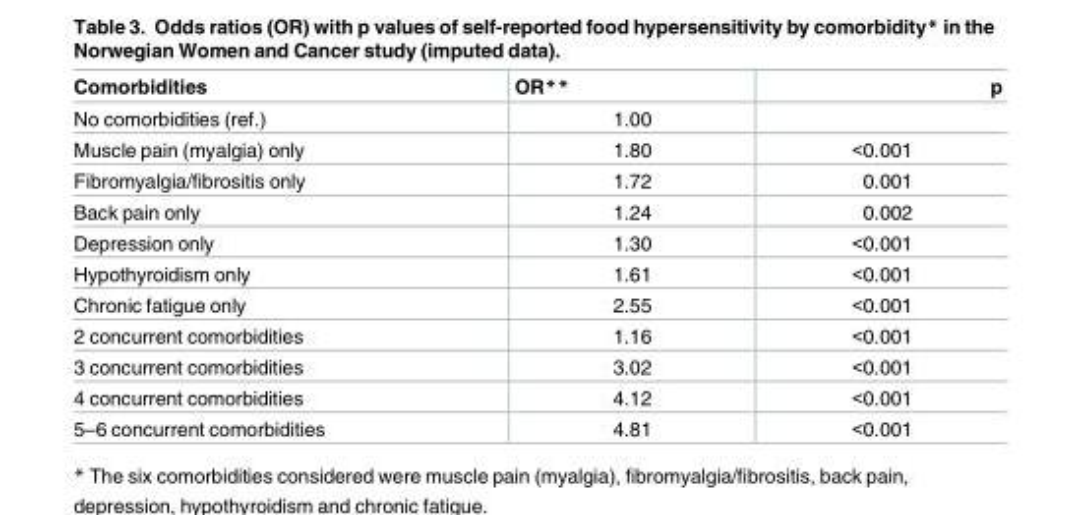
<table><thead><tr><td>Comorbidities</td><td>OR**</td><td>p</td></tr></thead><tbody><tr><td>No comorbidities (ref.)</td><td>1.00</td><td></td></tr><tr><td>Muscle pain (myalgia) only</td><td>1.80</td><td>&lt;0.001</td></tr><tr><td>Fibromyalgia/fibrositis only</td><td>1.72</td><td>0.001</td></tr><tr><td>Back pain only</td><td>1.24</td><td>0.002</td></tr><tr><td>Depression only</td><td>1.30</td><td>&lt;0.001</td></tr><tr><td>Hypothyroidism only</td><td>1.61</td><td>&lt;0.001</td></tr><tr><td>Chronic fatigue only</td><td>2.55</td><td>&lt;0.001</td></tr><tr><td>2 concurrent comorbidities</td><td>1.16</td><td>&lt;0.001</td></tr><tr><td>3 concurrent comorbidities</td><td>3.02</td><td>&lt;0.001</td></tr><tr><td>4 concurrent comorbidities</td><td>4.12</td><td>&lt;0.001</td></tr><tr><td>5–6 concurrent comorbidities</td><td>4.81</td><td>&lt;0.001</td></tr></tbody></table>